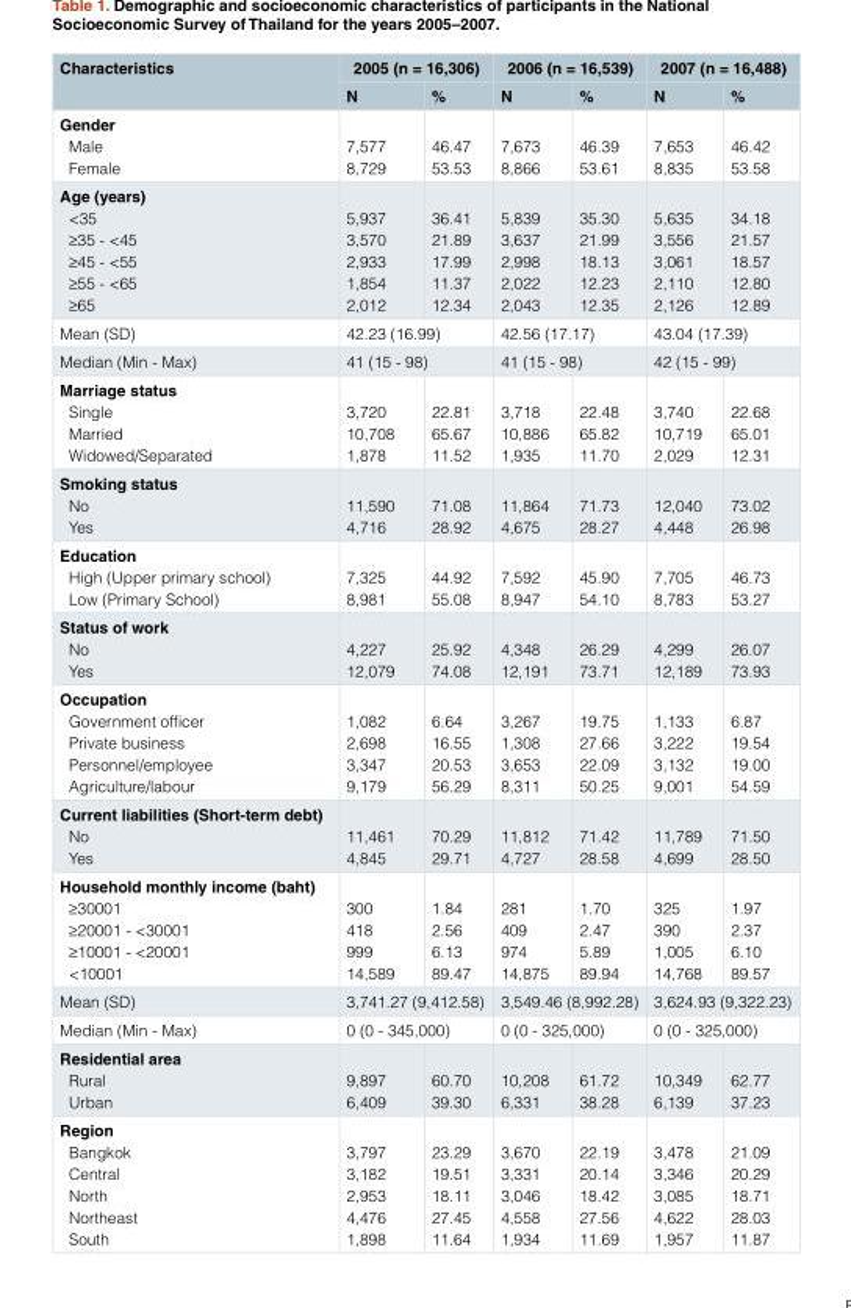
<table><thead><tr><td rowspan="2">Characteristics</td><td colspan="2">2005 (n = 16,306)</td><td colspan="2">2006 (n = 16,539)</td><td colspan="2">2007 (n = 16,488)</td></tr><tr><td>N</td><td>%</td><td>N</td><td>%</td><td>N</td><td>%</td></tr></thead><tbody><tr><td>Gender Male Female</td><td>7,577 8,729</td><td>46.47 53.53</td><td>7,673 8,866</td><td>46.39 53.61</td><td>7,653 8,835</td><td>46.42 53.58</td></tr><tr><td>Age (years) &lt;35 ≥35 - &lt;45 ≥45 - &lt;55 ≥55 - &lt;65 ≥65</td><td>5,937 3,570 2,933 1,854 2,012</td><td>36.41 21.89 17.99 11.37 12.34</td><td>5,839 3,637 2,998 2,022 2,043</td><td>35.30 21.99 18.13 12.23 12.35</td><td>5,635 3,556 3,061 2,110 2,126</td><td>34.18 21.57 18.57 12.80 12.89</td></tr><tr><td>Mean (SD)</td><td colspan="2">42.23 (16.99)</td><td colspan="2">42.56 (17.17)</td><td colspan="2">43.04 (17.39)</td></tr><tr><td>Median (Min - Max)</td><td colspan="2">41 (15 - 98)</td><td colspan="2">41 (15 - 98)</td><td colspan="2">42 (15 - 99)</td></tr><tr><td>Marriage status Single Married Widowed/Separated</td><td>3,720 10,708 1,878</td><td>22.81 65.67 11.52</td><td>3,718 10,886 1,935</td><td>22.48 65.82 11.70</td><td>3,740 10,719 2,029</td><td>22.68 65.01 12.31</td></tr><tr><td>Smoking status No Yes</td><td>11,590 4,716</td><td>71.08 28.92</td><td>11,864 4,675</td><td>71.73 28.27</td><td>12,040 4,448</td><td>73.02 26.98</td></tr><tr><td>Education High (Upper primary school) Low (Primary School)</td><td>7,325 8,981</td><td>44.92 55.08</td><td>7,592 8,947</td><td>45.90 54.10</td><td>7,705 8,783</td><td>46.73 53.27</td></tr><tr><td>Status of work No Yes</td><td>4,227 12,079</td><td>25.92 74.08</td><td>4,348 12,191</td><td>26.29 73.71</td><td>4,299 12,189</td><td>26.07 73.93</td></tr><tr><td>Occupation Government officer Private business Personnel/employee Agriculture/labour</td><td>1,082 2,698 3,347 9,179</td><td>6.64 16.55 20.53 56.29</td><td>3,267 1,308 3,653 8,311</td><td>19.75 27.66 22.09 50.25</td><td>1,133 3,222 3,132 9,001</td><td>6.87 19.54 19.00 54.59</td></tr><tr><td>Current liabilities (Short-term debt) No Yes</td><td>11,461 4,845</td><td>70.29 29.71</td><td>11,812 4,727</td><td>71.42 28.58</td><td>11,789 4,699</td><td>71.50 28.50</td></tr><tr><td>Household monthly income (baht) ≥30001 ≥20001 - &lt;30001 ≥10001 - &lt;20001 &lt;10001</td><td>300 418 999 14,589</td><td>1.84 2.56 6.13 89.47</td><td>281 409 974 14,875</td><td>1.70 2.47 5.89 89.94</td><td>325 390 1,005 14,768</td><td>1.97 2.37 6.10 89.57</td></tr><tr><td>Mean (SD)</td><td colspan="2">3,741.27 (9,412.58)</td><td colspan="2">3,549.46 (8,992.28)</td><td colspan="2">3,624.93 (9,322.23)</td></tr><tr><td>Median (Min - Max)</td><td colspan="2">0 (0 - 345,000)</td><td colspan="2">0 (0 - 325,000)</td><td colspan="2">0 (0 - 325,000)</td></tr><tr><td>Residential area Rural Urban</td><td>9,897 6,409</td><td>60.70 39.30</td><td>10,208 6,331</td><td>61.72 38.28</td><td>10,349 6,139</td><td>62.77 37.23</td></tr><tr><td>Region Bangkok Central North Northeast South</td><td>3,797 3,182 2,953 4,476 1,898</td><td>23.29 19.51 18.11 27.45 11.64</td><td>3,670 3,331 3,046 4,558 1,934</td><td>22.19 20.14 18.42 27.56 11.69</td><td>3,478 3,346 3,085 4,622 1,957</td><td>21.09 20.29 18.71 28.03 11.87</td></tr></tbody></table>